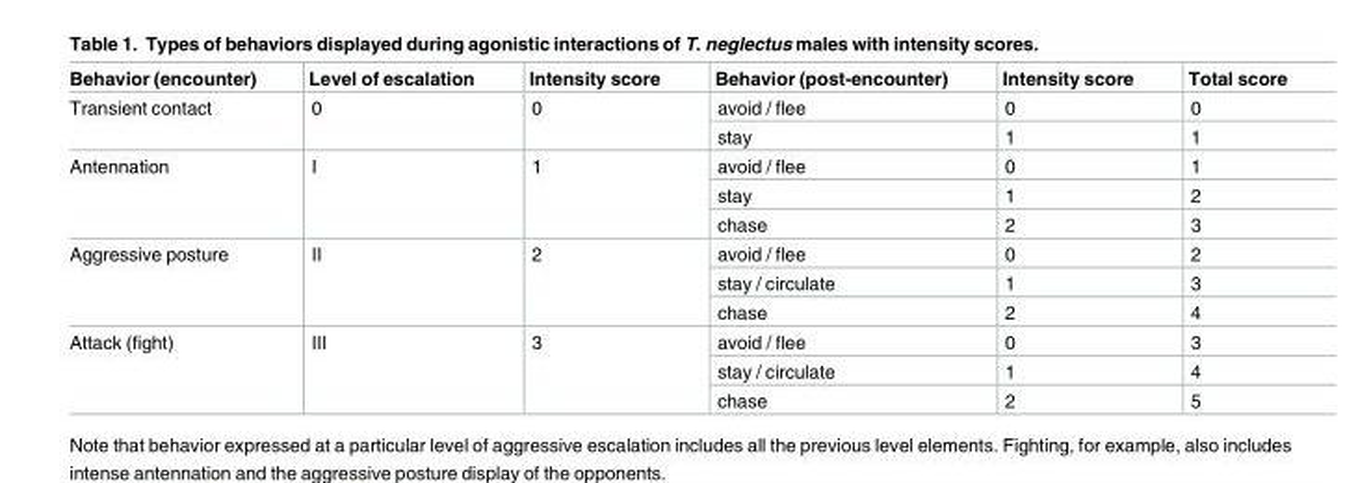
<table><thead><tr><td>Behavior (encounter)</td><td>Level of escalation</td><td>Intensity score</td><td>Behavior (post-encounter)</td><td>Intensity score</td><td>Total score</td></tr></thead><tbody><tr><td rowspan="2">Transient contact</td><td rowspan="2">0</td><td rowspan="2">0</td><td>avoid / flee</td><td>0</td><td>0</td></tr><tr><td>stay</td><td>1</td><td>1</td></tr><tr><td rowspan="3">Antennation</td><td rowspan="3">I</td><td rowspan="3">1</td><td>avoid / flee</td><td>0</td><td>1</td></tr><tr><td>stay</td><td>1</td><td>2</td></tr><tr><td>chase</td><td>2</td><td>3</td></tr><tr><td rowspan="3">Aggressive posture</td><td rowspan="3">II</td><td rowspan="3">2</td><td>avoid / flee</td><td>0</td><td>2</td></tr><tr><td>stay / circulate</td><td>1</td><td>3</td></tr><tr><td>chase</td><td>2</td><td>4</td></tr><tr><td rowspan="3">Attack (fight)</td><td rowspan="3">III</td><td rowspan="3">3</td><td>avoid / flee</td><td>0</td><td>3</td></tr><tr><td>stay / circulate</td><td>1</td><td>4</td></tr><tr><td>chase</td><td>2</td><td>5</td></tr></tbody></table>